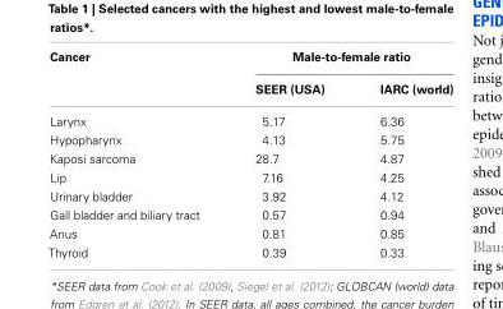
<table><thead><tr><td rowspan="2">Cancer</td><td colspan="2">Male-to-female ratio</td></tr><tr><td>SEER (USA)</td><td>IARC (world)</td></tr></thead><tbody><tr><td>Larynx</td><td>5.17</td><td>6.36</td></tr><tr><td>Hypopharynx</td><td>4.13</td><td>5.75</td></tr><tr><td>Kaposi sarcoma</td><td>28.7</td><td>4.87</td></tr><tr><td>Lip</td><td>7.16</td><td>4.25</td></tr><tr><td>Urinary bladder</td><td>3.92</td><td>4.12</td></tr><tr><td>Gall bladder and biliary tract</td><td>0.57</td><td>0.94</td></tr><tr><td>Anus</td><td>0.81</td><td>0.85</td></tr><tr><td>Thyroid</td><td>0.39</td><td>0.33</td></tr></tbody></table>